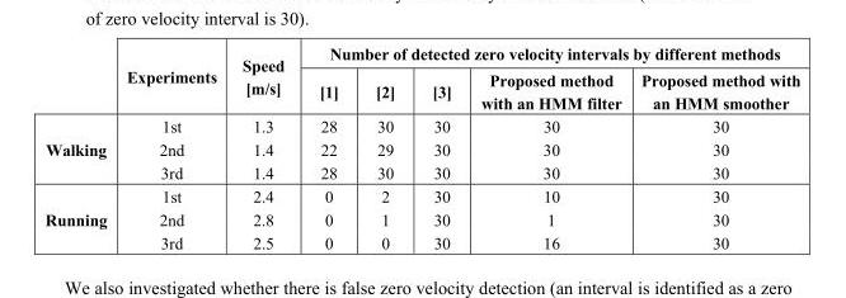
<table><thead><tr><td rowspan="2"></td><td rowspan="2">Experiments</td><td rowspan="2">Speed [m/s]</td><td colspan="5">Number of detected zero velocity intervals by different methods</td></tr><tr><td>[1]</td><td>[2]</td><td>[3]</td><td>Proposed method with an HMM filter</td><td>Proposed method with an HMM smoother</td></tr></thead><tbody><tr><td rowspan="3">Walking</td><td>1st</td><td>1.3</td><td>28</td><td>30</td><td>30</td><td>30</td><td>30</td></tr><tr><td>2nd</td><td>1.4</td><td>22</td><td>29</td><td>30</td><td>30</td><td>30</td></tr><tr><td>3rd</td><td>1.4</td><td>28</td><td>30</td><td>30</td><td>30</td><td>30</td></tr><tr><td rowspan="3">Running</td><td>1st</td><td>2.4</td><td>0</td><td>2</td><td>30</td><td>10</td><td>30</td></tr><tr><td>2nd</td><td>2.8</td><td>0</td><td>1</td><td>30</td><td>1</td><td>30</td></tr><tr><td>3rd</td><td>2.5</td><td>0</td><td>0</td><td>30</td><td>16</td><td>30</td></tr></tbody></table>